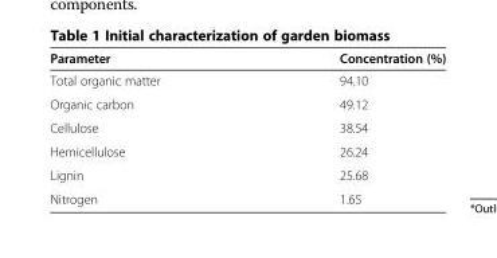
<table><thead><tr><td>Parameter</td><td>Concentration (%)</td></tr></thead><tbody><tr><td>Total organic matter</td><td>94.10</td></tr><tr><td>Organic carbon</td><td>49.12</td></tr><tr><td>Cellulose</td><td>38.54</td></tr><tr><td>Hemicellulose</td><td>26.24</td></tr><tr><td>Lignin</td><td>25.68</td></tr><tr><td>Nitrogen</td><td>1.65</td></tr></tbody></table>